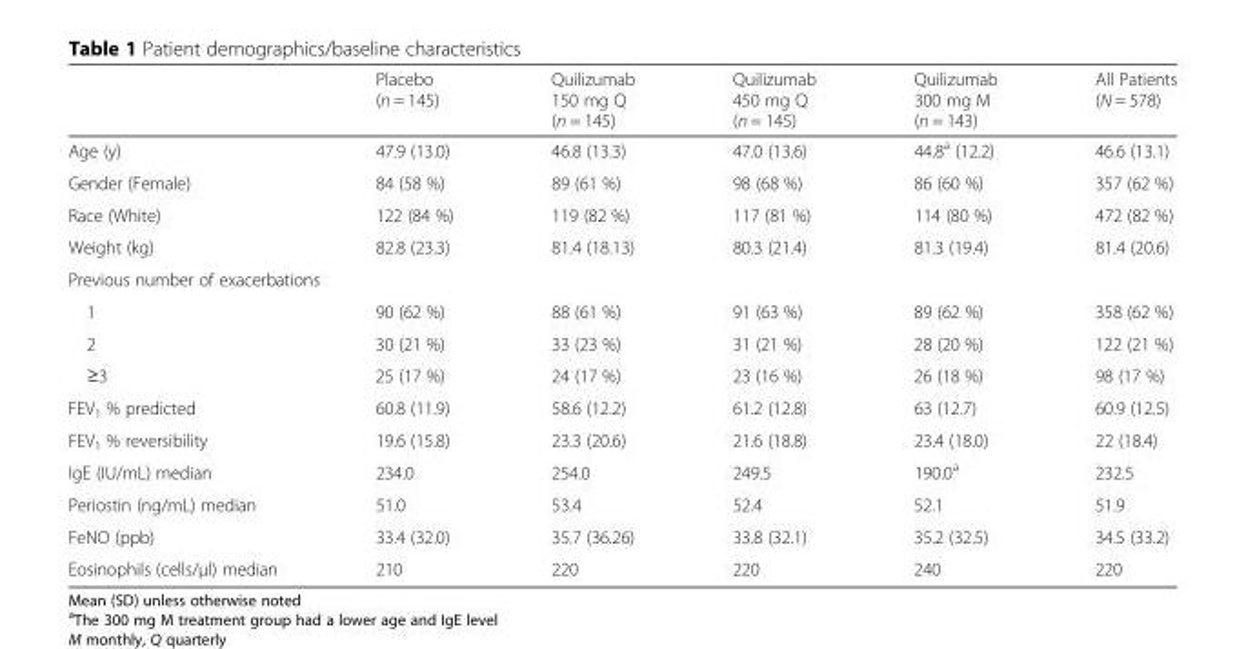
<table><thead><tr><td></td><td>Placebo (n = 145)</td><td>Quilizumab 150 mg Q (n = 145)</td><td>Quilizumab 450 mg Q (n = 145)</td><td>Quilizumab 300 mg M (n = 143)</td><td>All Patients (N = 578)</td></tr></thead><tbody><tr><td>Age (y)</td><td>47.9 (13.0)</td><td>46.8 (13.3)</td><td>47.0 (13.6)</td><td>44.8<sup>a</sup> (12.2)</td><td>46.6 (13.1)</td></tr><tr><td>Gender (Female)</td><td>84 (58 %)</td><td>89 (61 %)</td><td>98 (68 %)</td><td>86 (60 %)</td><td>357 (62 %)</td></tr><tr><td>Race (White)</td><td>122 (84 %)</td><td>119 (82 %)</td><td>117 (81 %)</td><td>114 (80 %)</td><td>472 (82 %)</td></tr><tr><td>Weight (kg)</td><td>82.8 (23.3)</td><td>81.4 (18.13)</td><td>80.3 (21.4)</td><td>81.3 (19.4)</td><td>81.4 (20.6)</td></tr><tr><td colspan="6">Previous number of exacerbations</td></tr><tr><td>1</td><td>90 (62 %)</td><td>88 (61 %)</td><td>91 (63 %)</td><td>89 (62 %)</td><td>358 (62 %)</td></tr><tr><td>2</td><td>30 (21 %)</td><td>33 (23 %)</td><td>31 (21 %)</td><td>28 (20 %)</td><td>122 (21 %)</td></tr><tr><td>≥3</td><td>25 (17 %)</td><td>24 (17 %)</td><td>23 (16 %)</td><td>26 (18 %)</td><td>98 (17 %)</td></tr><tr><td>FEV<sub>1</sub> % predicted</td><td>60.8 (11.9)</td><td>58.6 (12.2)</td><td>61.2 (12.8)</td><td>63 (12.7)</td><td>60.9 (12.5)</td></tr><tr><td>FEV<sub>1</sub> % reversibility</td><td>19.6 (15.8)</td><td>23.3 (20.6)</td><td>21.6 (18.8)</td><td>23.4 (18.0)</td><td>22 (18.4)</td></tr><tr><td>IgE (IU/mL) median</td><td>234.0</td><td>254.0</td><td>249.5</td><td>190.0<sup>a</sup></td><td>232.5</td></tr><tr><td>Periostin (ng/mL) median</td><td>51.0</td><td>53.4</td><td>52.4</td><td>52.1</td><td>51.9</td></tr><tr><td>FeNO (ppb)</td><td>33.4 (32.0)</td><td>35.7 (36.26)</td><td>33.8 (32.1)</td><td>35.2 (32.5)</td><td>34.5 (33.2)</td></tr><tr><td>Eosinophils (cells/μl) median</td><td>210</td><td>220</td><td>220</td><td>240</td><td>220</td></tr></tbody></table>